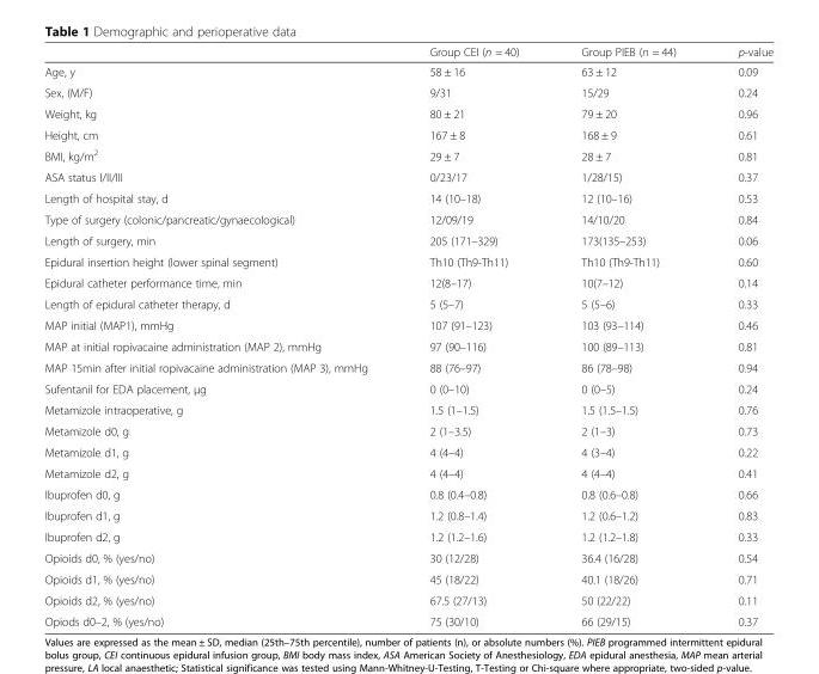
<table><thead><tr><td></td><td>Group CEI (n = 40)</td><td>Group PIEB (n = 44)</td><td>p-value</td></tr></thead><tbody><tr><td>Age, y</td><td>58 ± 16</td><td>63 ± 12</td><td>0.09</td></tr><tr><td>Sex, (M/F)</td><td>9/31</td><td>15/29</td><td>0.24</td></tr><tr><td>Weight, kg</td><td>80 ± 21</td><td>79 ± 20</td><td>0.96</td></tr><tr><td>Height, cm</td><td>167 ± 8</td><td>168 ± 9</td><td>0.61</td></tr><tr><td>BMI, kg/m<sup>2</sup></td><td>29 ± 7</td><td>28 ± 7</td><td>0.81</td></tr><tr><td>ASA status I/II/III</td><td>0/23/17</td><td>1/28/15)</td><td>0.37</td></tr><tr><td>Length of hospital stay, d</td><td>14 (10–18)</td><td>12 (10–16)</td><td>0.53</td></tr><tr><td>Type of surgery (colonic/pancreatic/gynaecological)</td><td>12/09/19</td><td>14/10/20</td><td>0.84</td></tr><tr><td>Length of surgery, min</td><td>205 (171–329)</td><td>173(135–253)</td><td>0.06</td></tr><tr><td>Epidural insertion height (lower spinal segment)</td><td>Th10 (Th9-Th11)</td><td>Th10 (Th9-Th11)</td><td>0.60</td></tr><tr><td>Epidural catheter performance time, min</td><td>12(8–17)</td><td>10(7–12)</td><td>0.14</td></tr><tr><td>Length of epidural catheter therapy, d</td><td>5 (5–7)</td><td>5 (5–6)</td><td>0.33</td></tr><tr><td>MAP initial (MAP1), mmHg</td><td>107 (91–123)</td><td>103 (93–114)</td><td>0.46</td></tr><tr><td>MAP at initial ropivacaine administration (MAP 2), mmHg</td><td>97 (90–116)</td><td>100 (89–113)</td><td>0.81</td></tr><tr><td>MAP 15min after initial ropivacaine administration (MAP 3), mmHg</td><td>88 (76–97)</td><td>86 (78–98)</td><td>0.94</td></tr><tr><td>Sufentanil for EDA placement, μg</td><td>0 (0–10)</td><td>0 (0–5)</td><td>0.24</td></tr><tr><td>Metamizole intraoperative, g</td><td>1.5 (1–1.5)</td><td>1.5 (1.5–1.5)</td><td>0.76</td></tr><tr><td>Metamizole d0, g</td><td>2 (1–3.5)</td><td>2 (1–3)</td><td>0.73</td></tr><tr><td>Metamizole d1, g</td><td>4 (4–4)</td><td>4 (3–4)</td><td>0.22</td></tr><tr><td>Metamizole d2, g</td><td>4 (4–4)</td><td>4 (4–4)</td><td>0.41</td></tr><tr><td>Ibuprofen d0, g</td><td>0.8 (0.4–0.8)</td><td>0.8 (0.6–0.8)</td><td>0.66</td></tr><tr><td>Ibuprofen d1, g</td><td>1.2 (0.8–1.4)</td><td>1.2 (0.6–1.2)</td><td>0.83</td></tr><tr><td>Ibuprofen d2, g</td><td>1.2 (1.2–1.6)</td><td>1.2 (1.2–1.8)</td><td>0.33</td></tr><tr><td>Opioids d0, % (yes/no)</td><td>30 (12/28)</td><td>36.4 (16/28)</td><td>0.54</td></tr><tr><td>Opioids d1, % (yes/no)</td><td>45 (18/22)</td><td>40.1 (18/26)</td><td>0.71</td></tr><tr><td>Opioids d2, % (yes/no)</td><td>67.5 (27/13)</td><td>50 (22/22)</td><td>0.11</td></tr><tr><td>Opiods d0–2, % (yes/no)</td><td>75 (30/10)</td><td>66 (29/15)</td><td>0.37</td></tr></tbody></table>